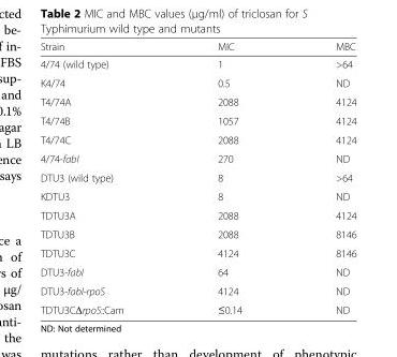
<table><thead><tr><td>Strain</td><td>MIC</td><td>MBC</td></tr></thead><tbody><tr><td>4/74 (wild type)</td><td>1</td><td>&gt;64</td></tr><tr><td>K4/74</td><td>0.5</td><td>ND</td></tr><tr><td>T4/74A</td><td>2088</td><td>4124</td></tr><tr><td>T4/74B</td><td>1057</td><td>4124</td></tr><tr><td>T4/74C</td><td>2088</td><td>4124</td></tr><tr><td>4/74-fabI</td><td>270</td><td>ND</td></tr><tr><td>DTU3 (wild type)</td><td>8</td><td>&gt;64</td></tr><tr><td>KDTU3</td><td>8</td><td>ND</td></tr><tr><td>TDTU3A</td><td>2088</td><td>4124</td></tr><tr><td>TDTU3B</td><td>2088</td><td>8146</td></tr><tr><td>TDTU3C</td><td>4124</td><td>8146</td></tr><tr><td>DTU3-fabI</td><td>64</td><td>ND</td></tr><tr><td>DTU3-fabI-rpoS</td><td>4124</td><td>ND</td></tr><tr><td>TDTU3CΔrpoS::Cam</td><td>≤0.14</td><td>ND</td></tr></tbody></table>